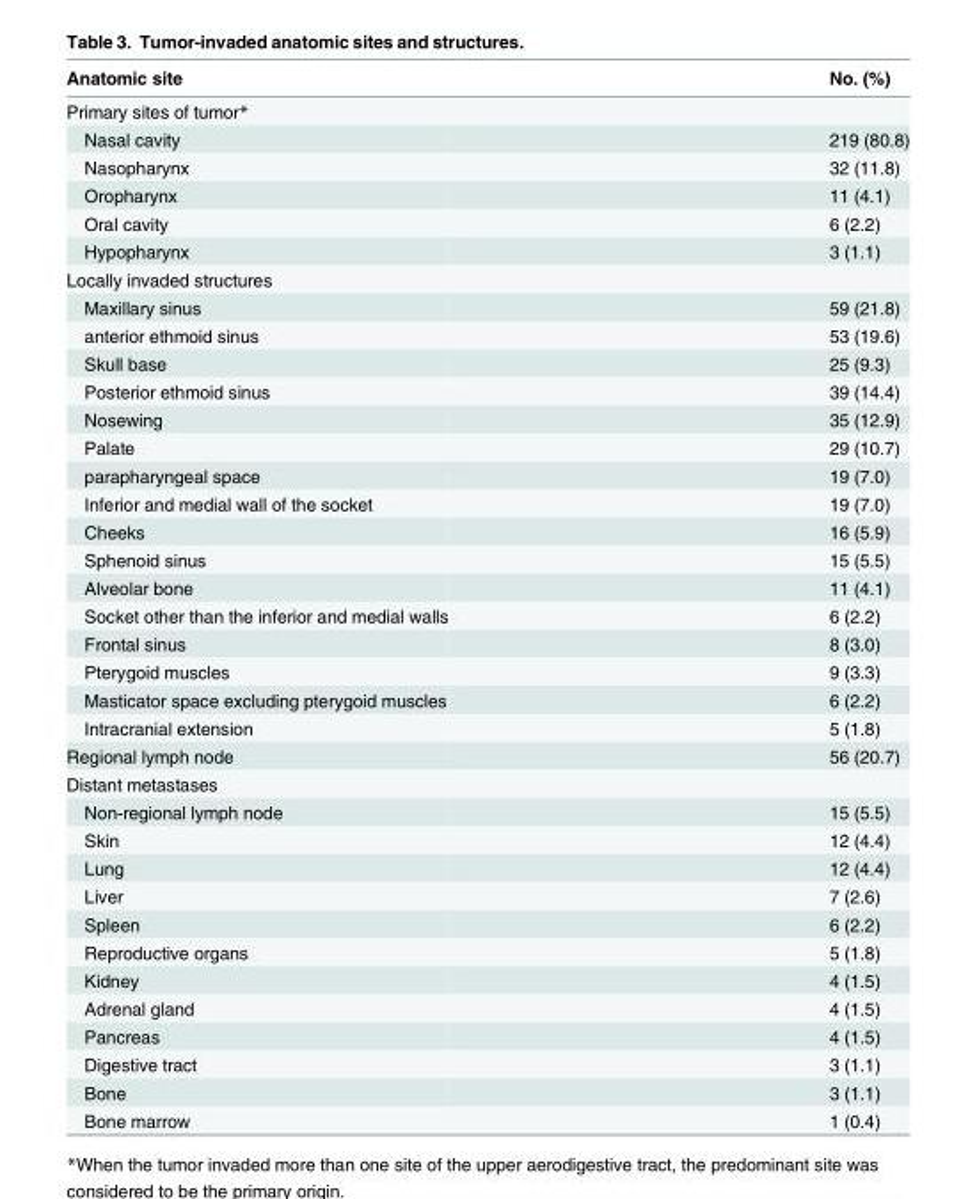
<table><thead><tr><td>Anatomic site</td><td>No. (%)</td></tr></thead><tbody><tr><td colspan="2">Primary sites of tumor*</td></tr><tr><td>Nasal cavity</td><td>219 (80.8)</td></tr><tr><td>Nasopharynx</td><td>32 (11.8)</td></tr><tr><td>Oropharynx</td><td>11 (4.1)</td></tr><tr><td>Oral cavity</td><td>6 (2.2)</td></tr><tr><td>Hypopharynx</td><td>3 (1.1)</td></tr><tr><td colspan="2">Locally invaded structures</td></tr><tr><td>Maxillary sinus</td><td>59 (21.8)</td></tr><tr><td>anterior ethmoid sinus</td><td>53 (19.6)</td></tr><tr><td>Skull base</td><td>25 (9.3)</td></tr><tr><td>Posterior ethmoid sinus</td><td>39 (14.4)</td></tr><tr><td>Nosewing</td><td>35 (12.9)</td></tr><tr><td>Palate</td><td>29 (10.7)</td></tr><tr><td>parapharyngeal space</td><td>19 (7.0)</td></tr><tr><td>Inferior and medial wall of the socket</td><td>19 (7.0)</td></tr><tr><td>Cheeks</td><td>16 (5.9)</td></tr><tr><td>Sphenoid sinus</td><td>15 (5.5)</td></tr><tr><td>Alveolar bone</td><td>11 (4.1)</td></tr><tr><td>Socket other than the inferior and medial walls</td><td>6 (2.2)</td></tr><tr><td>Frontal sinus</td><td>8 (3.0)</td></tr><tr><td>Pterygoid muscles</td><td>9 (3.3)</td></tr><tr><td>Masticator space excluding pterygoid muscles</td><td>6 (2.2)</td></tr><tr><td>Intracranial extension</td><td>5 (1.8)</td></tr><tr><td>Regional lymph node</td><td>56 (20.7)</td></tr><tr><td colspan="2">Distant metastases</td></tr><tr><td>Non-regional lymph node</td><td>15 (5.5)</td></tr><tr><td>Skin</td><td>12 (4.4)</td></tr><tr><td>Lung</td><td>12 (4.4)</td></tr><tr><td>Liver</td><td>7 (2.6)</td></tr><tr><td>Spleen</td><td>6 (2.2)</td></tr><tr><td>Reproductive organs</td><td>5 (1.8)</td></tr><tr><td>Kidney</td><td>4 (1.5)</td></tr><tr><td>Adrenal gland</td><td>4 (1.5)</td></tr><tr><td>Pancreas</td><td>4 (1.5)</td></tr><tr><td>Digestive tract</td><td>3 (1.1)</td></tr><tr><td>Bone</td><td>3 (1.1)</td></tr><tr><td>Bone marrow</td><td>1 (0.4)</td></tr></tbody></table>